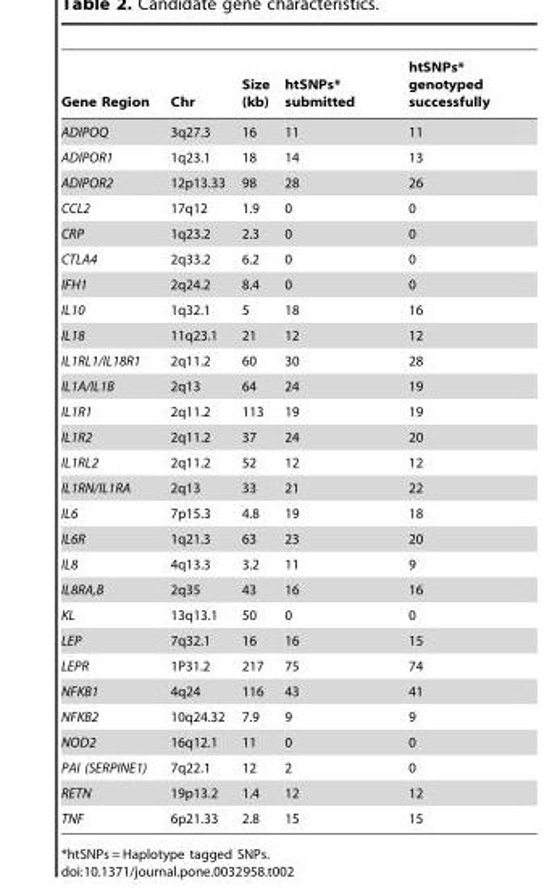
<table><thead><tr><td>Gene Region</td><td>Chr</td><td>Size (kb)</td><td>htSNPs* submitted</td><td>htSNPs* genotyped successfully</td></tr></thead><tbody><tr><td>ADIPOQ</td><td>3q27.3</td><td>16</td><td>11</td><td>11</td></tr><tr><td>ADIPOR1</td><td>1q23.1</td><td>18</td><td>14</td><td>13</td></tr><tr><td>ADIPOR2</td><td>12p13.33</td><td>98</td><td>28</td><td>26</td></tr><tr><td>CCL2</td><td>17q12</td><td>1.9</td><td>0</td><td>0</td></tr><tr><td>CRP</td><td>1q23.2</td><td>2.3</td><td>0</td><td>0</td></tr><tr><td>CTLA4</td><td>2q33.2</td><td>6.2</td><td>0</td><td>0</td></tr><tr><td>IFH1</td><td>2q24.2</td><td>8.4</td><td>0</td><td>0</td></tr><tr><td>IL10</td><td>1q32.1</td><td>5</td><td>18</td><td>16</td></tr><tr><td>IL18</td><td>11q23.1</td><td>21</td><td>12</td><td>12</td></tr><tr><td>IL1RL1/IL18R1</td><td>2q11.2</td><td>60</td><td>30</td><td>28</td></tr><tr><td>IL1A/IL1B</td><td>2q13</td><td>64</td><td>24</td><td>19</td></tr><tr><td>IL1R1</td><td>2q11.2</td><td>113</td><td>19</td><td>19</td></tr><tr><td>IL1R2</td><td>2q11.2</td><td>37</td><td>24</td><td>20</td></tr><tr><td>IL1RL2</td><td>2q11.2</td><td>52</td><td>12</td><td>12</td></tr><tr><td>IL1RN/IL1RA</td><td>2q13</td><td>33</td><td>21</td><td>22</td></tr><tr><td>IL6</td><td>7p15.3</td><td>4.8</td><td>19</td><td>18</td></tr><tr><td>IL6R</td><td>1q21.3</td><td>63</td><td>23</td><td>20</td></tr><tr><td>IL8</td><td>4q13.3</td><td>3.2</td><td>11</td><td>9</td></tr><tr><td>IL8RA,B</td><td>2q35</td><td>43</td><td>16</td><td>16</td></tr><tr><td>KL</td><td>13q13.1</td><td>50</td><td>0</td><td>0</td></tr><tr><td>LEP</td><td>7q32.1</td><td>16</td><td>16</td><td>15</td></tr><tr><td>LEPR</td><td>1P31.2</td><td>217</td><td>75</td><td>74</td></tr><tr><td>NFKB1</td><td>4q24</td><td>116</td><td>43</td><td>41</td></tr><tr><td>NFKB2</td><td>10q24.32</td><td>7.9</td><td>9</td><td>9</td></tr><tr><td>NOD2</td><td>16q12.1</td><td>11</td><td>0</td><td>0</td></tr><tr><td>PAI (SERPINE1)</td><td>7q22.1</td><td>12</td><td>2</td><td>0</td></tr><tr><td>RETN</td><td>19p13.2</td><td>1.4</td><td>12</td><td>12</td></tr><tr><td>TNF</td><td>6p21.33</td><td>2.8</td><td>15</td><td>15</td></tr></tbody></table>